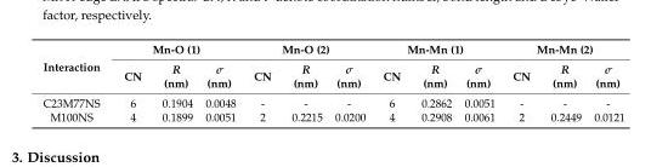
<table><thead><tr><td rowspan="2">Interaction</td><td colspan="3">Mn-O (1)</td><td colspan="3">Mn-O (2)</td><td colspan="3">Mn-Mn (1)</td><td colspan="3">Mn-Mn (2)</td></tr><tr><td>CN</td><td>R (nm)</td><td>σ (nm)</td><td>CN</td><td>R (nm)</td><td>σ (nm)</td><td>CN</td><td>R (nm)</td><td>σ (nm)</td><td>CN</td><td>R (nm)</td><td>σ (nm)</td></tr></thead><tbody><tr><td>C23M77NS</td><td>6</td><td>0.1904</td><td>0.0048</td><td>-</td><td>-</td><td>-</td><td>6</td><td>0.2862</td><td>0.0051</td><td>-</td><td>-</td><td>-</td></tr><tr><td>M100NS</td><td>4</td><td>0.1899</td><td>0.0051</td><td>2</td><td>0.2215</td><td>0.0200</td><td>4</td><td>0.2908</td><td>0.0061</td><td>2</td><td>0.2449</td><td>0.0121</td></tr></tbody></table>